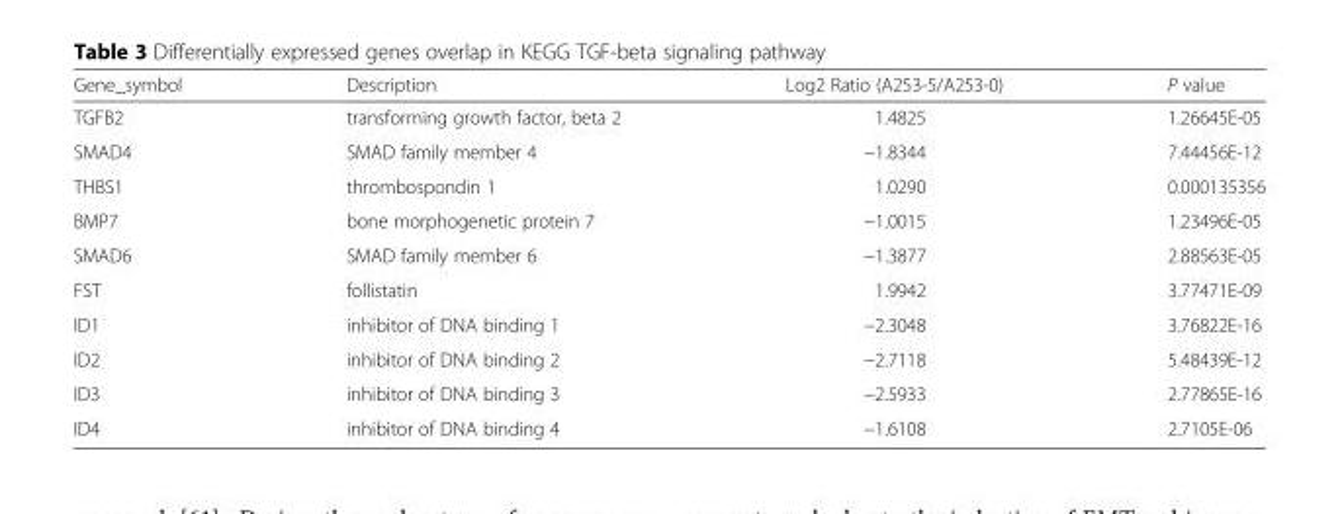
<table><thead><tr><td>Gene_symbol</td><td>Description</td><td>Log2 Ratio (A253-5/A253-0)</td><td>P value</td></tr></thead><tbody><tr><td>TGFB2</td><td>transforming growth factor, beta 2</td><td>1.4825</td><td>1.26645E-05</td></tr><tr><td>SMAD4</td><td>SMAD family member 4</td><td>−1.8344</td><td>7.44456E-12</td></tr><tr><td>THBS1</td><td>thrombospondin 1</td><td>1.0290</td><td>0.000135356</td></tr><tr><td>BMP7</td><td>bone morphogenetic protein 7</td><td>−1.0015</td><td>1.23496E-05</td></tr><tr><td>SMAD6</td><td>SMAD family member 6</td><td>−1.3877</td><td>2.88563E-05</td></tr><tr><td>FST</td><td>follistatin</td><td>1.9942</td><td>3.77471E-09</td></tr><tr><td>ID1</td><td>inhibitor of DNA binding 1</td><td>−2.3048</td><td>3.76822E-16</td></tr><tr><td>ID2</td><td>inhibitor of DNA binding 2</td><td>−2.7118</td><td>5.48439E-12</td></tr><tr><td>ID3</td><td>inhibitor of DNA binding 3</td><td>−2.5933</td><td>2.77865E-16</td></tr><tr><td>ID4</td><td>inhibitor of DNA binding 4</td><td>−1.6108</td><td>2.7105E-06</td></tr></tbody></table>